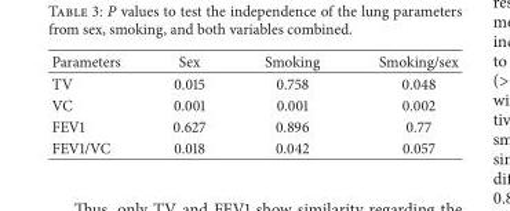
<table><thead><tr><td>Parameters</td><td>Sex</td><td>Smoking</td><td>Smoking/sex</td></tr></thead><tbody><tr><td>TV</td><td>0.015</td><td>0.758</td><td>0.048</td></tr><tr><td>VC</td><td>0.001</td><td>0.001</td><td>0.002</td></tr><tr><td>FEV1</td><td>0.627</td><td>0.896</td><td>0.77</td></tr><tr><td>FEV1/VC</td><td>0.018</td><td>0.042</td><td>0.057</td></tr></tbody></table>